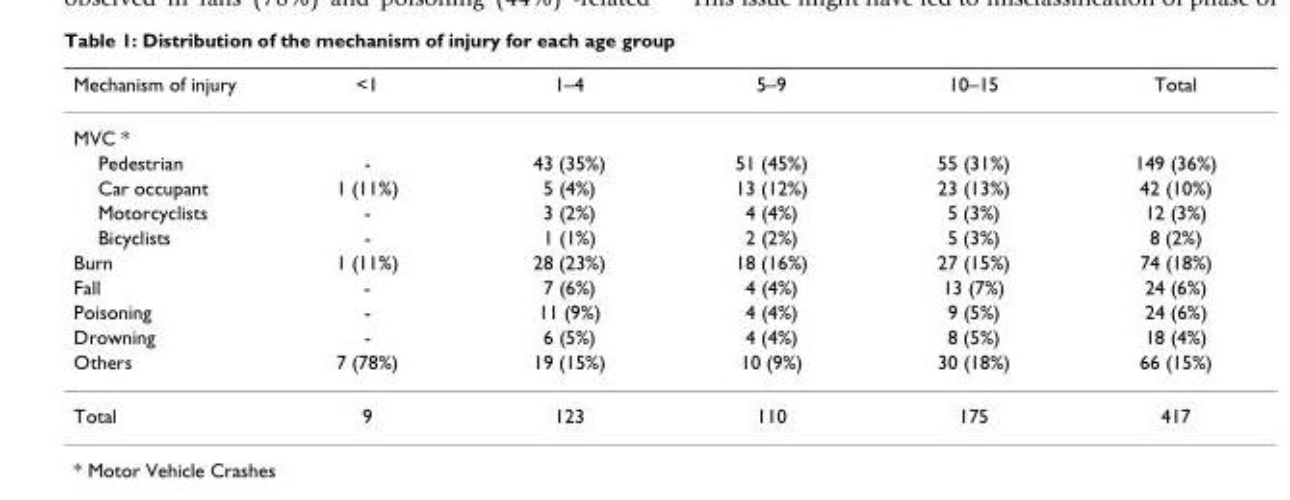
<table><thead><tr><td>Mechanism of injury</td><td>&lt;1</td><td>1–4</td><td>5–9</td><td>10–15</td><td>Total</td></tr></thead><tbody><tr><td colspan="6">MVC *</td></tr><tr><td>Pedestrian</td><td>-</td><td>43 (35%)</td><td>51 (45%)</td><td>55 (31%)</td><td>149 (36%)</td></tr><tr><td>Car occupant</td><td>1 (11%)</td><td>5 (4%)</td><td>13 (12%)</td><td>23 (13%)</td><td>42 (10%)</td></tr><tr><td>Motorcyclists</td><td>-</td><td>3 (2%)</td><td>4 (4%)</td><td>5 (3%)</td><td>12 (3%)</td></tr><tr><td>Bicyclists</td><td>-</td><td>1 (1%)</td><td>2 (2%)</td><td>5 (3%)</td><td>8 (2%)</td></tr><tr><td>Burn</td><td>1 (11%)</td><td>28 (23%)</td><td>18 (16%)</td><td>27 (15%)</td><td>74 (18%)</td></tr><tr><td>Fall</td><td>-</td><td>7 (6%)</td><td>4 (4%)</td><td>13 (7%)</td><td>24 (6%)</td></tr><tr><td>Poisoning</td><td>-</td><td>11 (9%)</td><td>4 (4%)</td><td>9 (5%)</td><td>24 (6%)</td></tr><tr><td>Drowning</td><td>-</td><td>6 (5%)</td><td>4 (4%)</td><td>8 (5%)</td><td>18 (4%)</td></tr><tr><td>Others</td><td>7 (78%)</td><td>19 (15%)</td><td>10 (9%)</td><td>30 (18%)</td><td>66 (15%)</td></tr><tr><td>Total</td><td>9</td><td>123</td><td>110</td><td>175</td><td>417</td></tr></tbody></table>